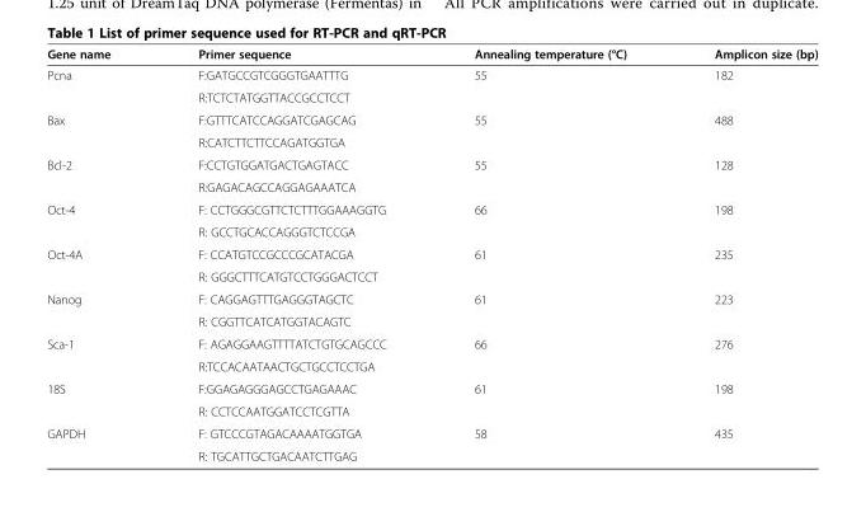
<table><thead><tr><td>Gene name</td><td>Primer sequence</td><td>Annealing temperature (°C)</td><td>Amplicon size (bp)</td></tr></thead><tbody><tr><td rowspan="2">Pcna</td><td>F:GATGCCGTCGGGTGAATTTG</td><td>55</td><td>182</td></tr><tr><td>R:TCTCTATGGTTACCGCCTCCT</td><td></td><td></td></tr><tr><td rowspan="2">Bax</td><td>F:GTTTCATCCAGGATCGAGCAG</td><td>55</td><td>488</td></tr><tr><td>R:CATCTTCTTCCAGATGGTGA</td><td></td><td></td></tr><tr><td rowspan="2">Bcl-2</td><td>F:CCTGTGGATGACTGAGTACC</td><td>55</td><td>128</td></tr><tr><td>R:GAGACAGCCAGGAGAAATCA</td><td></td><td></td></tr><tr><td rowspan="2">Oct-4</td><td>F: CCTGGGCGTTCTCTTTGGAAAGGTG</td><td>66</td><td>198</td></tr><tr><td>R: GCCTGCACCAGGGTCTCCGA</td><td></td><td></td></tr><tr><td rowspan="2">Oct-4A</td><td>F: CCATGTCCGCCCGCATACGA</td><td>61</td><td>235</td></tr><tr><td>R: GGGCTTTCATGTCCTGGGACTCCT</td><td></td><td></td></tr><tr><td rowspan="2">Nanog</td><td>F: CAGGAGTTTGAGGGTAGCTC</td><td>61</td><td>223</td></tr><tr><td>R: CGGTTCATCATGGTACAGTC</td><td></td><td></td></tr><tr><td rowspan="2">Sca-1</td><td>F: AGAGGAAGTTTTATCTGTGCAGCCC</td><td>66</td><td>276</td></tr><tr><td>R:TCCACAATAACTGCTGCCTCCTGA</td><td></td><td></td></tr><tr><td rowspan="2">18S</td><td>F:GGAGAGGGAGCCTGAGAAAC</td><td>61</td><td>198</td></tr><tr><td>R: CCTCCAATGGATCCTCGTTA</td><td></td><td></td></tr><tr><td rowspan="2">GAPDH</td><td>F: GTCCCGTAGACAAAATGGTGA</td><td>58</td><td>435</td></tr><tr><td>R: TGCATTGCTGACAATCTTGAG</td><td></td><td></td></tr></tbody></table>